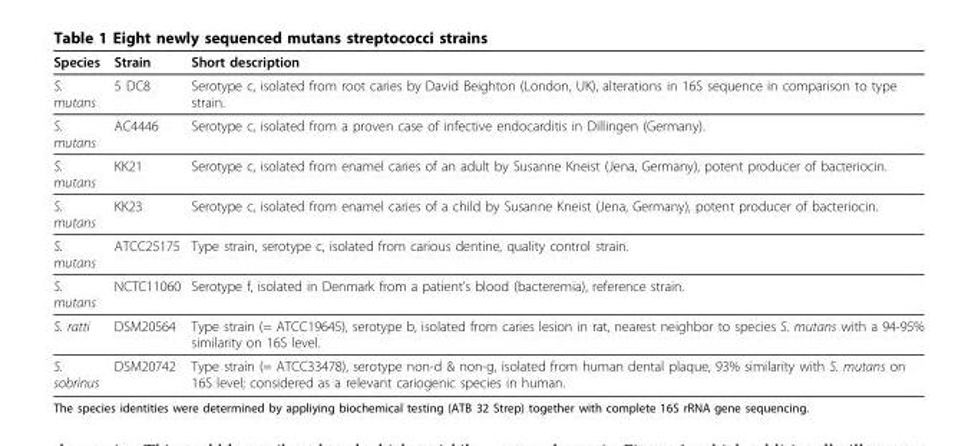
<table><thead><tr><td>Species</td><td>Strain</td><td>Short description</td></tr></thead><tbody><tr><td>S. mutans</td><td>5 DC8</td><td>Serotype c, isolated from root caries by David Beighton (London, UK), alterations in 16S sequence in comparison to type strain.</td></tr><tr><td>S. mutans</td><td>AC4446</td><td>Serotype c, isolated from a proven case of infective endocarditis in Dillingen (Germany).</td></tr><tr><td>S. mutans</td><td>KK21</td><td>Serotype c, isolated from enamel caries of an adult by Susanne Kneist (Jena, Germany), potent producer of bacteriocin.</td></tr><tr><td>S. mutans</td><td>KK23</td><td>Serotype c, isolated from enamel caries of a child by Susanne Kneist (Jena, Germany), potent producer of bacteriocin.</td></tr><tr><td>S. mutans</td><td>ATCC25175</td><td>Type strain, serotype c, isolated from carious dentine, quality control strain.</td></tr><tr><td>S. mutans</td><td>NCTC11060</td><td>Serotype f, isolated in Denmark from a patient’s blood (bacteremia), reference strain.</td></tr><tr><td>S. ratti</td><td>DSM20564</td><td>Type strain (= ATCC19645), serotype b, isolated from caries lesion in rat, nearest neighbor to species S. mutans with a 94-95% similarity on 16S level.</td></tr><tr><td>S. sobrinus</td><td>DSM20742</td><td>Type strain (= ATCC33478), serotype non-d &amp; non-g, isolated from human dental plaque, 93% similarity with S. mutans on 16S level; considered as a relevant cariogenic species in human.</td></tr></tbody></table>